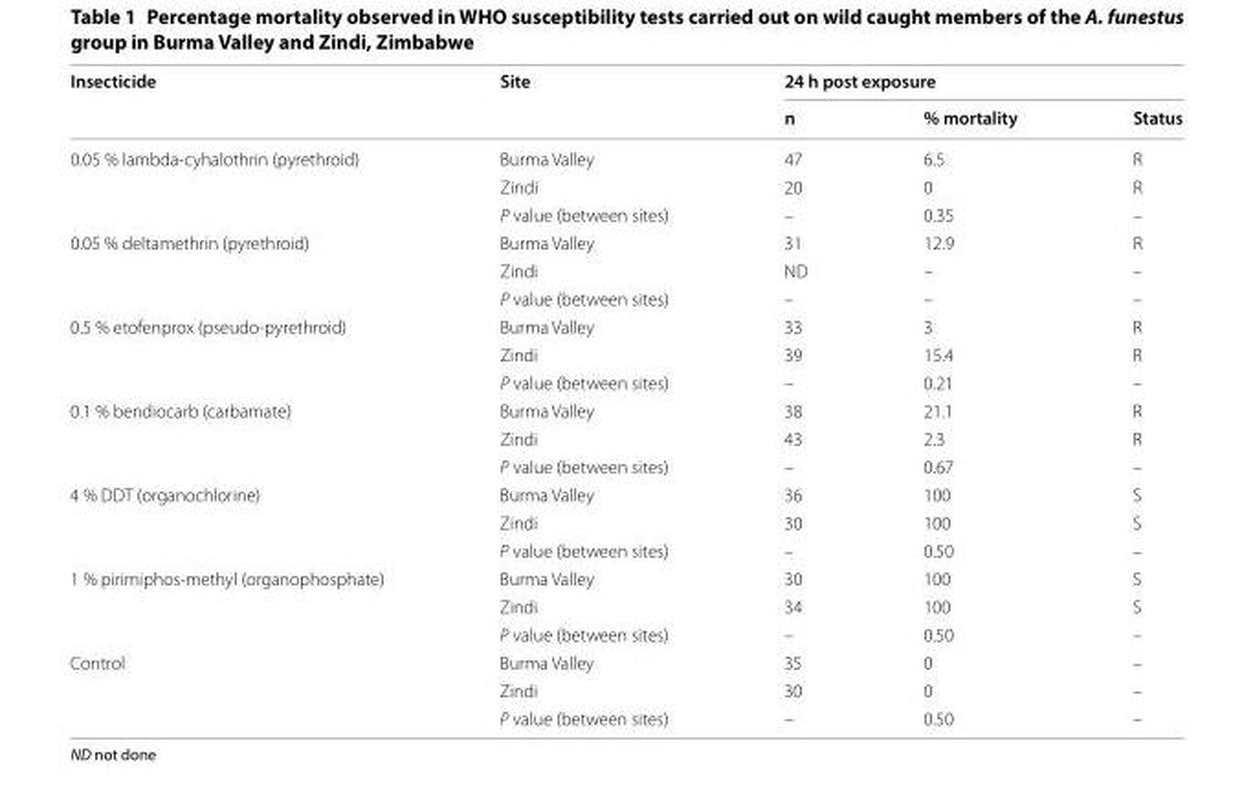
<table><thead><tr><td rowspan="2">Insecticide</td><td rowspan="2">Site</td><td colspan="3">24 h post exposure</td></tr><tr><td>n</td><td>% mortality</td><td>Status</td></tr></thead><tbody><tr><td rowspan="3">0.05 % lambda-cyhalothrin (pyrethroid)</td><td>Burma Valley</td><td>47</td><td>6.5</td><td>R</td></tr><tr><td>Zindi</td><td>20</td><td>0</td><td>R</td></tr><tr><td>P value (between sites)</td><td>–</td><td>0.35</td><td>–</td></tr><tr><td rowspan="3">0.05 % deltamethrin (pyrethroid)</td><td>Burma Valley</td><td>31</td><td>12.9</td><td>R</td></tr><tr><td>Zindi</td><td>ND</td><td>–</td><td>–</td></tr><tr><td>P value (between sites)</td><td>–</td><td>–</td><td>–</td></tr><tr><td rowspan="3">0.5 % etofenprox (pseudo-pyrethroid)</td><td>Burma Valley</td><td>33</td><td>3</td><td>R</td></tr><tr><td>Zindi</td><td>39</td><td>15.4</td><td>R</td></tr><tr><td>P value (between sites)</td><td>–</td><td>0.21</td><td>–</td></tr><tr><td rowspan="3">0.1 % bendiocarb (carbamate)</td><td>Burma Valley</td><td>38</td><td>21.1</td><td>R</td></tr><tr><td>Zindi</td><td>43</td><td>2.3</td><td>R</td></tr><tr><td>P value (between sites)</td><td>–</td><td>0.67</td><td>–</td></tr><tr><td rowspan="3">4 % DDT (organochlorine)</td><td>Burma Valley</td><td>36</td><td>100</td><td>S</td></tr><tr><td>Zindi</td><td>30</td><td>100</td><td>S</td></tr><tr><td>P value (between sites)</td><td>–</td><td>0.50</td><td>–</td></tr><tr><td rowspan="3">1 % pirimiphos-methyl (organophosphate)</td><td>Burma Valley</td><td>30</td><td>100</td><td>S</td></tr><tr><td>Zindi</td><td>34</td><td>100</td><td>S</td></tr><tr><td>P value (between sites)</td><td>–</td><td>0.50</td><td>–</td></tr><tr><td rowspan="3">Control</td><td>Burma Valley</td><td>35</td><td>0</td><td>–</td></tr><tr><td>Zindi</td><td>30</td><td>0</td><td>–</td></tr><tr><td>P value (between sites)</td><td>–</td><td>0.50</td><td>–</td></tr></tbody></table>